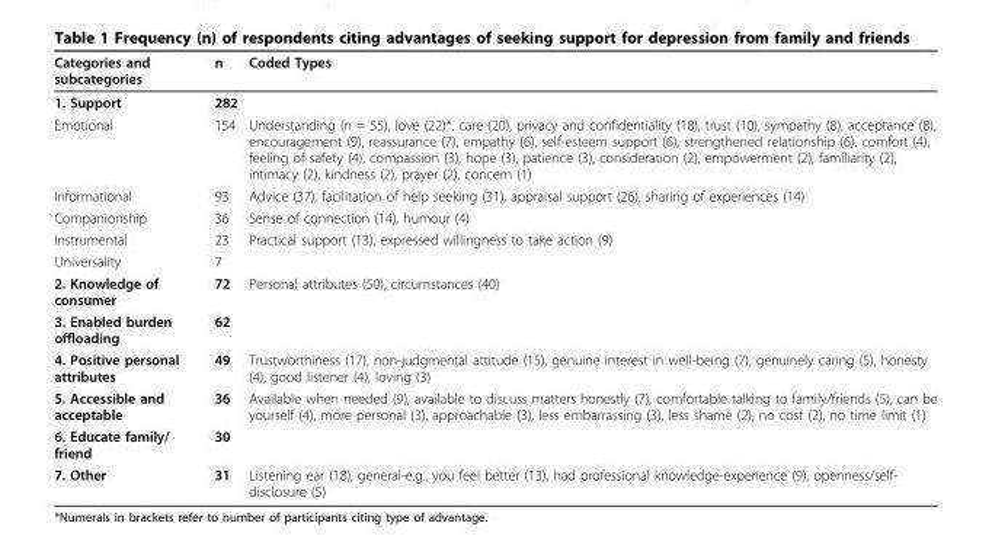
<table><thead><tr><td>Categories and subcategories</td><td>n</td><td>Coded Types</td></tr></thead><tbody><tr><td>1. Support</td><td>282</td><td></td></tr><tr><td>Emotional</td><td>154</td><td>Understanding (n = 55), love (22)*, care (20), privacy and confidentiality (18), trust (10), sympathy (8), acceptance (8), encouragement (9), reassurance (7), empathy (6), self-esteem support (6), strengthened relationship (6), comfort (4), feeling of safety (4), compassion (3), hope (3), patience (3), consideration (2), empowerment (2), familiarity (2), intimacy (2), kindness (2), prayer (2), concern (1)</td></tr><tr><td>Informational</td><td>93</td><td>Advice (37), facilitation of help seeking (31), appraisal support (26), sharing of experiences (14)</td></tr><tr><td>Companionship</td><td>36</td><td>Sense of connection (14), humour (4)</td></tr><tr><td>Instrumental</td><td>23</td><td>Practical support (13), expressed willingness to take action (9)</td></tr><tr><td>Universality</td><td>7</td><td></td></tr><tr><td>2. Knowledge of consumer</td><td>72</td><td>Personal attributes (50), circumstances (40)</td></tr><tr><td>3. Enabled burden offloading</td><td>62</td><td></td></tr><tr><td>4. Positive personal attributes</td><td>49</td><td>Trustworthiness (17), non-judgmental attitude (15), genuine interest in well-being (7), genuinely caring (5), honesty (4), good listener (4), loving (3)</td></tr><tr><td>5. Accessible and acceptable</td><td>36</td><td>Available when needed (9), available to discuss matters honestly (7), comfortable talking to family/friends (5), can be yourself (4), more personal (3), approachable (3), less embarrassing (3), less shame (2), no cost (2), no time limit (1)</td></tr><tr><td>6. Educate family/ friend</td><td>30</td><td></td></tr><tr><td>7. Other</td><td>31</td><td>Listening ear (18), general-e.g., you feel better (13), had professional knowledge-experience (9), openness/self- disclosure (5)</td></tr></tbody></table>